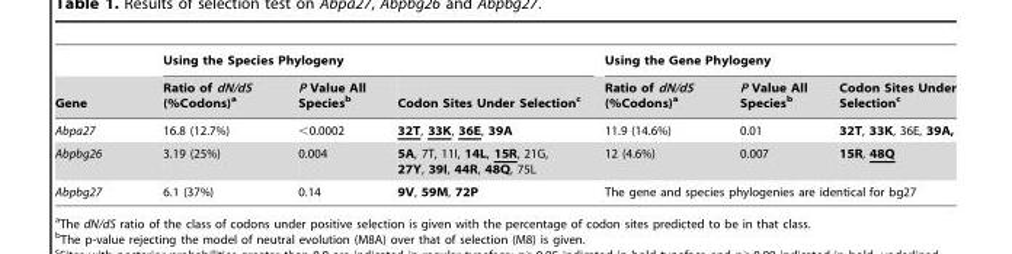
<table><thead><tr><td rowspan="2">Gene</td><td colspan="3">Using the Species Phylogeny</td><td colspan="3">Using the Gene Phylogeny</td></tr><tr><td>Ratio of dN/dS (%Codons)<sup>a</sup></td><td>P Value All Species<sup>b</sup></td><td>Codon Sites Under Selection<sup>c</sup></td><td>Ratio of dN/dS (%Codons)<sup>a</sup></td><td>P Value All Species<sup>b</sup></td><td>Codon Sites Under Selection<sup>c</sup></td></tr></thead><tbody><tr><td>Abpa27</td><td>16.8 (12.7%)</td><td>&lt;0.0002</td><td>32T, 33K, 36E, 39A</td><td>11.9 (14.6%)</td><td>0.01</td><td>32T, 33K, 36E, 39A,</td></tr><tr><td>Abpbg26</td><td>3.19 (25%)</td><td>0.004</td><td>5A, 7T, 11I, 14L, 15R, 21G, 27Y, 39I, 44R, 48Q, 75L</td><td>12 (4.6%)</td><td>0.007</td><td>15R, 48Q</td></tr><tr><td>Abpbg27</td><td>6.1 (37%)</td><td>0.14</td><td>9V, 59M, 72P</td><td colspan="3">The gene and species phylogenies are identical for bg27</td></tr></tbody></table>